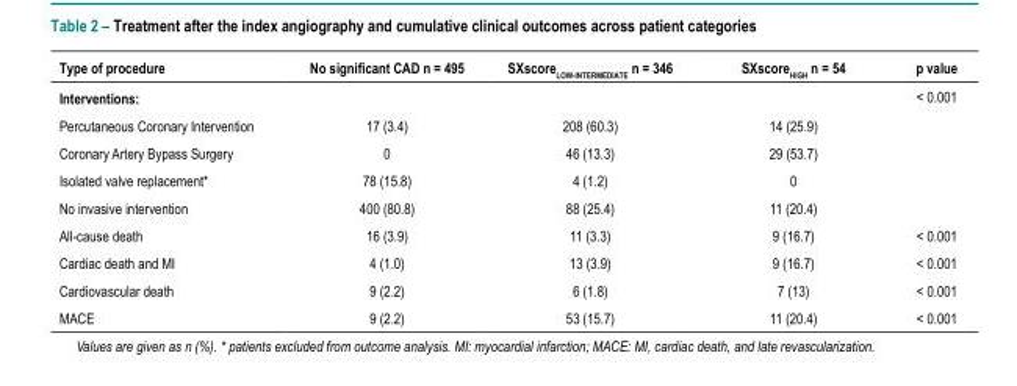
<table><thead><tr><td>Type of procedure</td><td>No significant CAD n = 495</td><td>SXscore<sub>LOW-INTERMEDIATE</sub> n = 346</td><td>SXscore<sub>HIGH</sub> n = 54</td><td>p value</td></tr></thead><tbody><tr><td>Interventions:</td><td></td><td></td><td></td><td>&lt; 0.001</td></tr><tr><td>Percutaneous Coronary Intervention</td><td>17 (3.4)</td><td>208 (60.3)</td><td>14 (25.9)</td><td></td></tr><tr><td>Coronary Artery Bypass Surgery</td><td>0</td><td>46 (13.3)</td><td>29 (53.7)</td><td></td></tr><tr><td>Isolated valve replacement*</td><td>78 (15.8)</td><td>4 (1.2)</td><td>0</td><td></td></tr><tr><td>No invasive intervention</td><td>400 (80.8)</td><td>88 (25.4)</td><td>11 (20.4)</td><td></td></tr><tr><td>All-cause death</td><td>16 (3.9)</td><td>11 (3.3)</td><td>9 (16.7)</td><td>&lt; 0.001</td></tr><tr><td>Cardiac death and MI</td><td>4 (1.0)</td><td>13 (3.9)</td><td>9 (16.7)</td><td>&lt; 0.001</td></tr><tr><td>Cardiovascular death</td><td>9 (2.2)</td><td>6 (1.8)</td><td>7 (13)</td><td>&lt; 0.001</td></tr><tr><td>MACE</td><td>9 (2.2)</td><td>53 (15.7)</td><td>11 (20.4)</td><td>&lt; 0.001</td></tr></tbody></table>